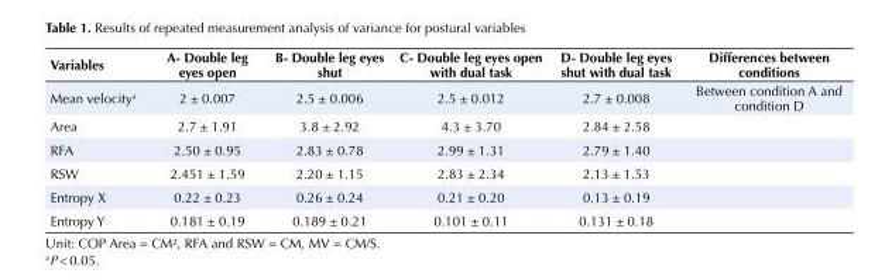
<table><tbody><tr><td>Variables</td><td>A- Double leg eyes open</td><td>B- Double leg eyes shut</td><td>C- Double leg eyes open with dual task</td><td>D- Double leg eyes shut with dual task</td><td>Differences between conditions</td></tr><tr><td>Mean velocity<sup>a</sup></td><td>2 ± 0.007</td><td>2.5 ± 0.006</td><td>2.5 ± 0.012</td><td>2.7 ± 0.008</td><td>Between condition A and condition D</td></tr><tr><td>Area</td><td>2.7 ± 1.91</td><td>3.8 ± 2.92</td><td>4.3 ± 3.70</td><td>2.84 ± 2.58</td><td></td></tr><tr><td>RFA</td><td>2.50 ± 0.95</td><td>2.83 ± 0.78</td><td>2.99 ± 1.31</td><td>2.79 ± 1.40</td><td></td></tr><tr><td>RSW</td><td>2.451 ± 1.59</td><td>2.20 ± 1.15</td><td>2.83 ± 2.34</td><td>2.13 ± 1.53</td><td></td></tr><tr><td>Entropy X</td><td>0.22 ± 0.23</td><td>0.26 ± 0.24</td><td>0.21 ± 0.20</td><td>0.13 ± 0.19</td><td></td></tr><tr><td>Entropy Y</td><td>0.181 ± 0.19</td><td>0.189 ± 0.21</td><td>0.101 ± 0.11</td><td>0.131 ± 0.18</td><td></td></tr></tbody></table>